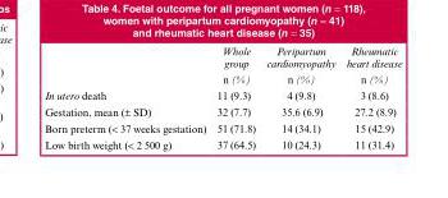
<table><thead><tr><td></td><td>Whole group n (%)</td><td>Peripartum cardiomyopathy n (%)</td><td>Rheumatic heart disease n (%)</td></tr></thead><tbody><tr><td>In utero death</td><td>11 (9.3)</td><td>4 (9.8)</td><td>3 (8.6)</td></tr><tr><td>Gestation, mean (± SD)</td><td>32 (7.7)</td><td>35.6 (6.9)</td><td>27.2 (8.9)</td></tr><tr><td>Born preterm (&lt; 37 weeks gestation)</td><td>51 (71.8)</td><td>14 (34.1)</td><td>15 (42.9)</td></tr><tr><td>Low birth weight (&lt; 2 500 g)</td><td>37 (64.5)</td><td>10 (24.3)</td><td>11 (31.4)</td></tr></tbody></table>